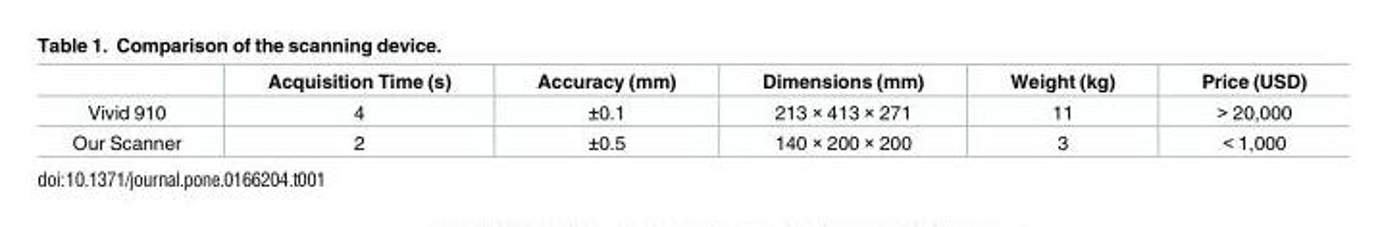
<table><thead><tr><td></td><td>Acquisition Time (s)</td><td>Accuracy (mm)</td><td>Dimensions (mm)</td><td>Weight (kg)</td><td>Price (USD)</td></tr></thead><tbody><tr><td>Vivid 910</td><td>4</td><td>±0.1</td><td>213 × 413 × 271</td><td>11</td><td>&gt; 20,000</td></tr><tr><td>Our Scanner</td><td>2</td><td>±0.5</td><td>140 × 200 × 200</td><td>3</td><td>&lt; 1,000</td></tr></tbody></table>